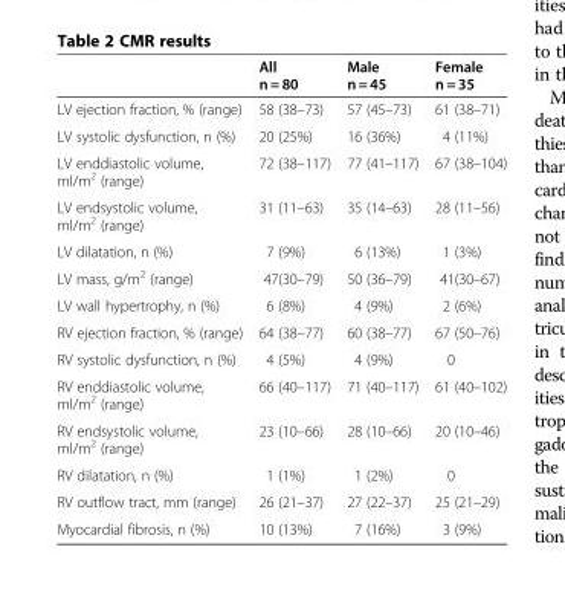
<table><thead><tr><td></td><td>All n = 80</td><td>Male n = 45</td><td>Female n = 35</td></tr></thead><tbody><tr><td>LV ejection fraction, % (range)</td><td>58 (38–73)</td><td>57 (45–73)</td><td>61 (38–71)</td></tr><tr><td>LV systolic dysfunction, n (%)</td><td>20 (25%)</td><td>16 (36%)</td><td>4 (11%)</td></tr><tr><td>LV enddiastolic volume, ml/m<sup>2</sup> (range)</td><td>72 (38–117)</td><td>77 (41–117)</td><td>67 (38–104)</td></tr><tr><td>LV endsystolic volume, ml/m<sup>2</sup> (range)</td><td>31 (11–63)</td><td>35 (14–63)</td><td>28 (11–56)</td></tr><tr><td>LV dilatation, n (%)</td><td>7 (9%)</td><td>6 (13%)</td><td>1 (3%)</td></tr><tr><td>LV mass, g/m<sup>2</sup> (range)</td><td>47(30–79)</td><td>50 (36–79)</td><td>41(30–67)</td></tr><tr><td>LV wall hypertrophy, n (%)</td><td>6 (8%)</td><td>4 (9%)</td><td>2 (6%)</td></tr><tr><td>RV ejection fraction, % (range)</td><td>64 (38–77)</td><td>60 (38–77)</td><td>67 (50–76)</td></tr><tr><td>RV systolic dysfunction, n (%)</td><td>4 (5%)</td><td>4 (9%)</td><td>0</td></tr><tr><td>RV enddiastolic volume, ml/m<sup>2</sup> (range)</td><td>66 (40–117)</td><td>71 (40–117)</td><td>61 (40–102)</td></tr><tr><td>RV endsystolic volume, ml/m<sup>2</sup> (range)</td><td>23 (10–66)</td><td>28 (10–66)</td><td>20 (10–46)</td></tr><tr><td>RV dilatation, n (%)</td><td>1 (1%)</td><td>1 (2%)</td><td>0</td></tr><tr><td>RV outflow tract, mm (range)</td><td>26 (21–37)</td><td>27 (22–37)</td><td>25 (21–29)</td></tr><tr><td>Myocardial fibrosis, n (%)</td><td>10 (13%)</td><td>7 (16%)</td><td>3 (9%)</td></tr></tbody></table>